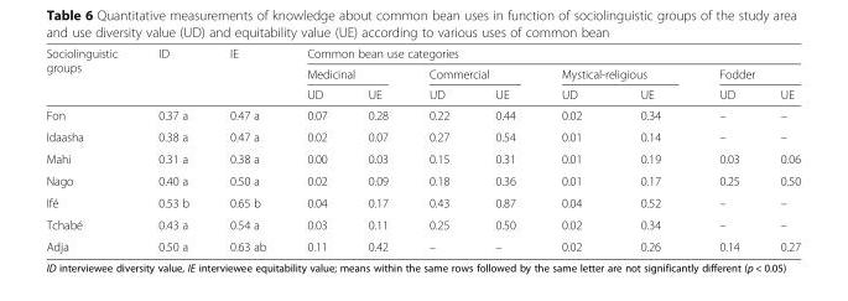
<table><thead><tr><td rowspan="3">Sociolinguistic groups</td><td rowspan="3">ID</td><td rowspan="3">IE</td><td colspan="8">Common bean use categories</td></tr><tr><td colspan="2">Medicinal</td><td colspan="2">Commercial</td><td colspan="2">Mystical-religious</td><td colspan="2">Fodder</td></tr><tr><td>UD</td><td>UE</td><td>UD</td><td>UE</td><td>UD</td><td>UE</td><td>UD</td><td>UE</td></tr></thead><tbody><tr><td>Fon</td><td>0.37 a</td><td>0.47 a</td><td>0.07</td><td>0.28</td><td>0.22</td><td>0.44</td><td>0.02</td><td>0.34</td><td>–</td><td>–</td></tr><tr><td>Idaasha</td><td>0.38 a</td><td>0.47 a</td><td>0.02</td><td>0.07</td><td>0.27</td><td>0.54</td><td>0.01</td><td>0.14</td><td>–</td><td>–</td></tr><tr><td>Mahi</td><td>0.31 a</td><td>0.38 a</td><td>0.00</td><td>0.03</td><td>0.15</td><td>0.31</td><td>0.01</td><td>0.19</td><td>0.03</td><td>0.06</td></tr><tr><td>Nago</td><td>0.40 a</td><td>0.50 a</td><td>0.02</td><td>0.09</td><td>0.18</td><td>0.36</td><td>0.01</td><td>0.17</td><td>0.25</td><td>0.50</td></tr><tr><td>Ifé</td><td>0.53 b</td><td>0.65 b</td><td>0.04</td><td>0.17</td><td>0.43</td><td>0.87</td><td>0.04</td><td>0.52</td><td>–</td><td>–</td></tr><tr><td>Tchabé</td><td>0.43 a</td><td>0.54 a</td><td>0.03</td><td>0.11</td><td>0.25</td><td>0.50</td><td>0.02</td><td>0.34</td><td>–</td><td>–</td></tr><tr><td>Adja</td><td>0.50 a</td><td>0.63 ab</td><td>0.11</td><td>0.42</td><td>–</td><td>–</td><td>0.02</td><td>0.26</td><td>0.14</td><td>0.27</td></tr></tbody></table>